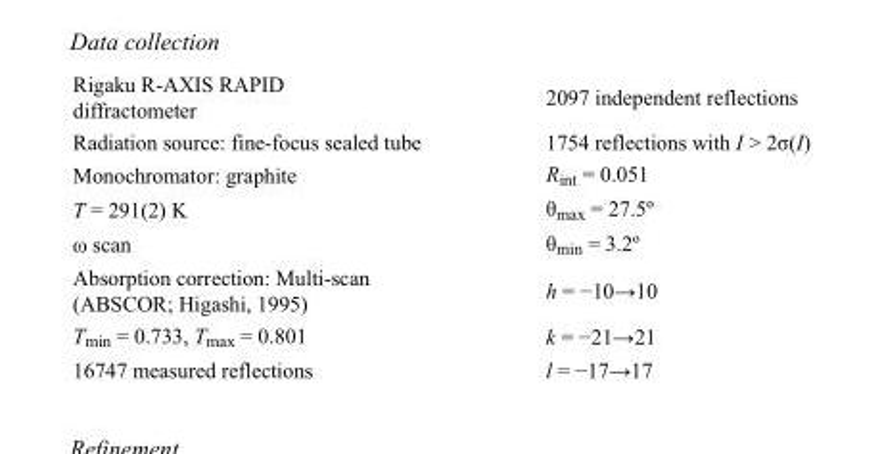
<table><tbody><tr><td>Rigaku R-AXIS RAPID diffractometer</td><td>2097 independent reflections</td></tr><tr><td>Radiation source: fine-focus sealed tube</td><td>1754 reflections with I &gt; 2σ(I)</td></tr><tr><td>Monochromator: graphite</td><td>R<sub>int</sub> = 0.051</td></tr><tr><td>T = 291(2) K</td><td>θ<sub>max</sub> = 27.5º</td></tr><tr><td>ω scan</td><td>θ<sub>min</sub> = 3.2º</td></tr><tr><td>Absorption correction: Multi-scan (ABSCOR; Higashi, 1995)</td><td>h = −10→10</td></tr><tr><td>T<sub>min</sub> = 0.733, T<sub>max</sub> = 0.801</td><td>k = −21→21</td></tr><tr><td>16747 measured reflections</td><td>l = −17→17</td></tr></tbody></table>